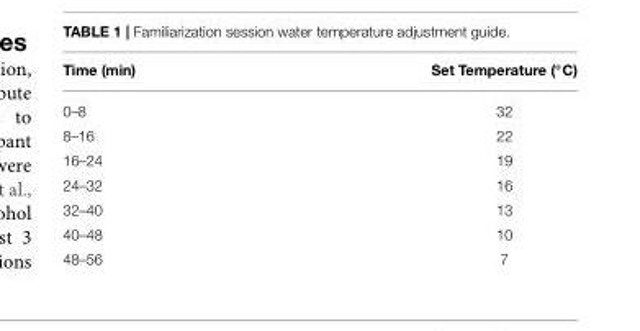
<table><thead><tr><td>Time (min)</td><td>Set Temperature (◦C)</td></tr></thead><tbody><tr><td>0–8</td><td>32</td></tr><tr><td>8–16</td><td>22</td></tr><tr><td>16–24</td><td>19</td></tr><tr><td>24–32</td><td>16</td></tr><tr><td>32–40</td><td>13</td></tr><tr><td>40–48</td><td>10</td></tr><tr><td>48–56</td><td>7</td></tr></tbody></table>